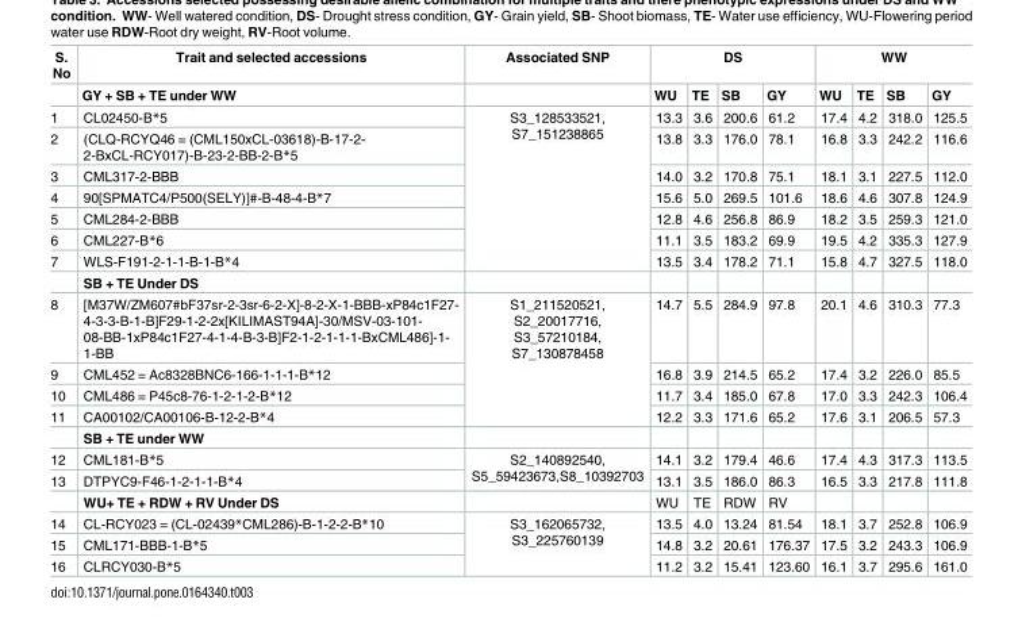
<table><thead><tr><td rowspan="2">S. No</td><td rowspan="2">Trait and selected accessions GY + SB + TE under WW</td><td rowspan="2">Associated SNP</td><td colspan="4">DS</td><td colspan="4">WW</td></tr><tr><td>WU</td><td>TE</td><td>SB</td><td>GY</td><td>WU</td><td>TE</td><td>SB</td><td>GY</td></tr></thead><tbody><tr><td>1</td><td>CL02450-B*5</td><td rowspan="7">S3_128533521, S7_151238865</td><td>13.3</td><td>3.6</td><td>200.6</td><td>61.2</td><td>17.4</td><td>4.2</td><td>318.0</td><td>125.5</td></tr><tr><td>2</td><td>(CLQ-RCYQ46 = (CML150xCL-03618)-B-17-2- 2-BxCL-RCY017)-B-23-2-BB-2-B*5</td><td>13.8</td><td>3.3</td><td>176.0</td><td>78.1</td><td>16.8</td><td>3.3</td><td>242.2</td><td>116.6</td></tr><tr><td>3</td><td>CML317-2-BBB</td><td>14.0</td><td>3.2</td><td>170.8</td><td>75.1</td><td>18.1</td><td>3.1</td><td>227.5</td><td>112.0</td></tr><tr><td>4</td><td>90[SPMATC4/P500(SELY)]#-B-48-4-B*7</td><td>15.6</td><td>5.0</td><td>269.5</td><td>101.6</td><td>18.6</td><td>4.6</td><td>307.8</td><td>124.9</td></tr><tr><td>5</td><td>CML284-2-BBB</td><td>12.8</td><td>4.6</td><td>256.8</td><td>86.9</td><td>18.2</td><td>3.5</td><td>259.3</td><td>121.0</td></tr><tr><td>6</td><td>CML227-B*6</td><td>11.1</td><td>3.5</td><td>183.2</td><td>69.9</td><td>19.5</td><td>4.2</td><td>335.3</td><td>127.9</td></tr><tr><td rowspan="2">7</td><td>WLS-F191-2-1-1-B-1-B*4</td><td>13.5</td><td>3.4</td><td>178.2</td><td>71.1</td><td>15.8</td><td>4.7</td><td>327.5</td><td>118.0</td></tr><tr><td>SB + TE Under DS</td><td></td><td></td><td></td><td></td><td></td><td></td><td></td><td></td><td></td></tr><tr><td>8</td><td>[M37W/ZM607#bF37sr-2-3sr-6-2-X]-8-2-X-1-BBB-xP84c1F27- 4-3-3-B-1-B]F29-1-2-2x[KILIMAST94A]-30/MSV-03-101- 08-BB-1xP84c1F27-4-1-4-B-3-B]F2-1-2-1-1-1-BxCML486]-1- 1-BB</td><td rowspan="4">S1_211520521, S2_20017716, S3_57210184, S7_130878458</td><td>14.7</td><td>5.5</td><td>284.9</td><td>97.8</td><td>20.1</td><td>4.6</td><td>310.3</td><td>77.3</td></tr><tr><td>9</td><td>CML452 = Ac8328BNC6-166-1-1-1-B*12</td><td>16.8</td><td>3.9</td><td>214.5</td><td>65.2</td><td>17.4</td><td>3.2</td><td>226.0</td><td>85.5</td></tr><tr><td>10</td><td>CML486 = P45c8-76-1-2-1-2-B*12</td><td>11.7</td><td>3.4</td><td>185.0</td><td>67.8</td><td>17.0</td><td>3.3</td><td>242.3</td><td>106.4</td></tr><tr><td rowspan="2">11</td><td>CA00102/CA00106-B-12-2-B*4</td><td>12.2</td><td>3.3</td><td>171.6</td><td>65.2</td><td>17.6</td><td>3.1</td><td>206.5</td><td>57.3</td></tr><tr><td>SB + TE under WW</td><td></td><td></td><td></td><td></td><td></td><td></td><td></td><td></td><td></td></tr><tr><td>12</td><td>CML181-B*5</td><td rowspan="2">S2_140892540, S5_59423673,S8_10392703</td><td>14.1</td><td>3.2</td><td>179.4</td><td>46.6</td><td>17.4</td><td>4.3</td><td>317.3</td><td>113.5</td></tr><tr><td rowspan="2">13</td><td>DTPYC9-F46-1-2-1-1-B*4</td><td>13.1</td><td>3.5</td><td>186.0</td><td>86.3</td><td>16.5</td><td>3.3</td><td>217.8</td><td>111.8</td></tr><tr><td>WU+ TE + RDW + RV Under DS</td><td></td><td>WU</td><td>TE</td><td>RDW</td><td>RV</td><td></td><td></td><td></td><td></td></tr><tr><td>14</td><td>CL-RCY023 = (CL-02439*CML286)-B-1-2-2-B*10</td><td rowspan="3">S3_162065732, S3_225760139</td><td>13.5</td><td>4.0</td><td>13.24</td><td>81.54</td><td>18.1</td><td>3.7</td><td>252.8</td><td>106.9</td></tr><tr><td>15</td><td>CML171-BBB-1-B*5</td><td>14.8</td><td>3.2</td><td>20.61</td><td>176.37</td><td>17.5</td><td>3.2</td><td>243.3</td><td>106.9</td></tr><tr><td>16</td><td>CLRCY030-B*5</td><td>11.2</td><td>3.2</td><td>15.41</td><td>123.60</td><td>16.1</td><td>3.7</td><td>295.6</td><td>161.0</td></tr></tbody></table>